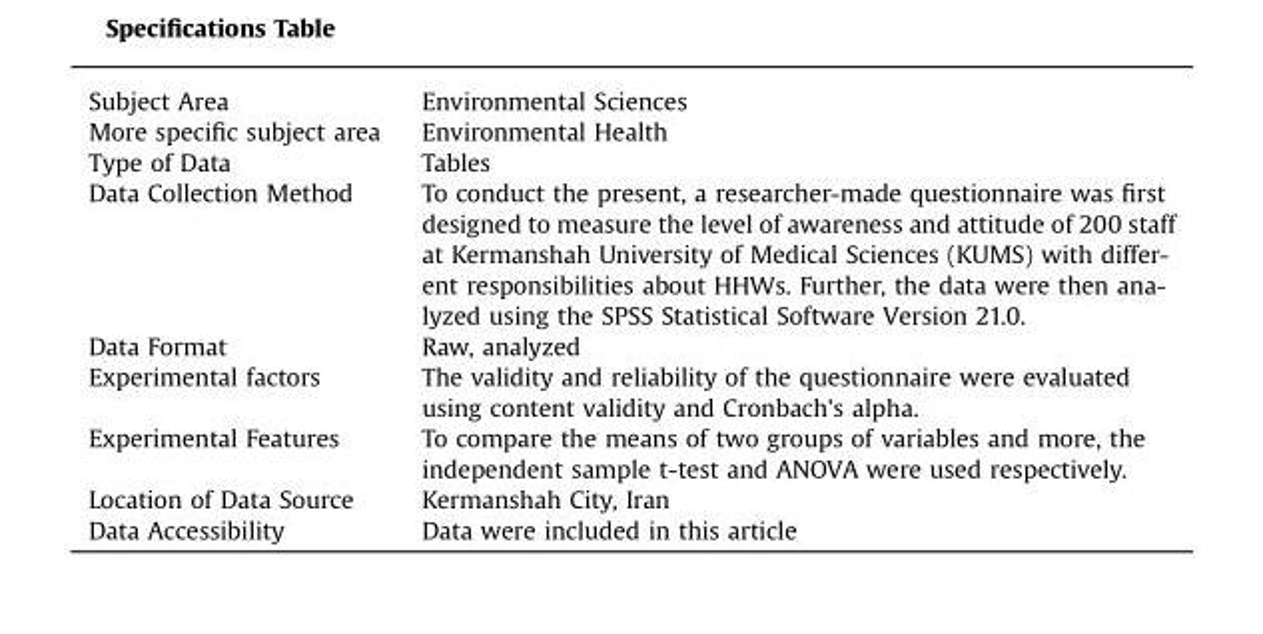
<table><tbody><tr><td>Subject Area</td><td>Environmental Sciences</td></tr><tr><td>More specific subject area</td><td>Environmental Health</td></tr><tr><td>Type of Data</td><td>Tables</td></tr><tr><td>Data Collection Method</td><td>To conduct the present, a researcher-made questionnaire was first designed to measure the level of awareness and attitude of 200 staff at Kermanshah University of Medical Sciences (KUMS) with differ- ent responsibilities about HHWs. Further, the data were then ana- lyzed using the SPSS Statistical Software Version 21.0.</td></tr><tr><td>Data Format</td><td>Raw, analyzed</td></tr><tr><td>Experimental factors</td><td>The validity and reliability of the questionnaire were evaluated using content validity and Cronbach&#x27;s alpha.</td></tr><tr><td>Experimental Features</td><td>To compare the means of two groups of variables and more, the independent sample t-test and ANOVA were used respectively.</td></tr><tr><td>Location of Data Source</td><td>Kermanshah City, Iran</td></tr><tr><td>Data Accessibility</td><td>Data were included in this article</td></tr></tbody></table>